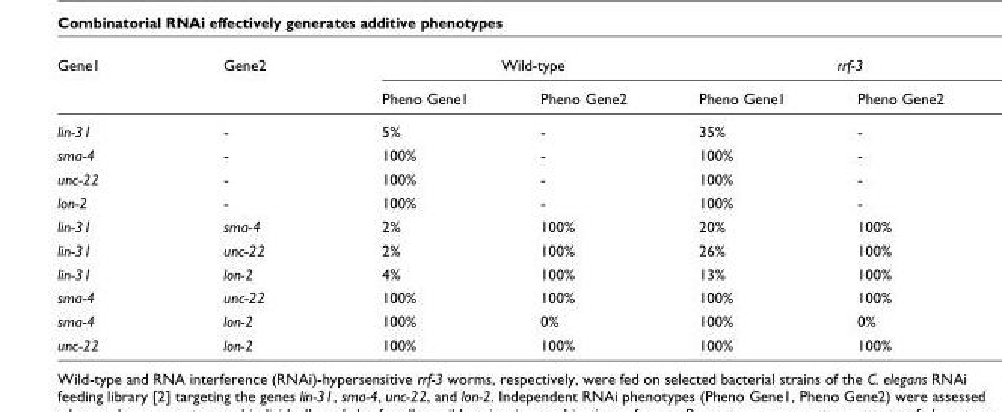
<table><thead><tr><td rowspan="2">Gene1</td><td rowspan="2">Gene2</td><td colspan="2">Wild-type</td><td colspan="2">rrf-3</td></tr><tr><td>Pheno Gene1</td><td>Pheno Gene2</td><td>Pheno Gene1</td><td>Pheno Gene2</td></tr></thead><tbody><tr><td>lin-31</td><td>-</td><td>5%</td><td>-</td><td>35%</td><td>-</td></tr><tr><td>sma-4</td><td>-</td><td>100%</td><td>-</td><td>100%</td><td>-</td></tr><tr><td>unc-22</td><td>-</td><td>100%</td><td>-</td><td>100%</td><td>-</td></tr><tr><td>lon-2</td><td>-</td><td>100%</td><td>-</td><td>100%</td><td>-</td></tr><tr><td>lin-31</td><td>sma-4</td><td>2%</td><td>100%</td><td>20%</td><td>100%</td></tr><tr><td>lin-31</td><td>unc-22</td><td>2%</td><td>100%</td><td>26%</td><td>100%</td></tr><tr><td>lin-31</td><td>lon-2</td><td>4%</td><td>100%</td><td>13%</td><td>100%</td></tr><tr><td>sma-4</td><td>unc-22</td><td>100%</td><td>100%</td><td>100%</td><td>100%</td></tr><tr><td>sma-4</td><td>lon-2</td><td>100%</td><td>0%</td><td>100%</td><td>0%</td></tr><tr><td>unc-22</td><td>lon-2</td><td>100%</td><td>100%</td><td>100%</td><td>100%</td></tr></tbody></table>